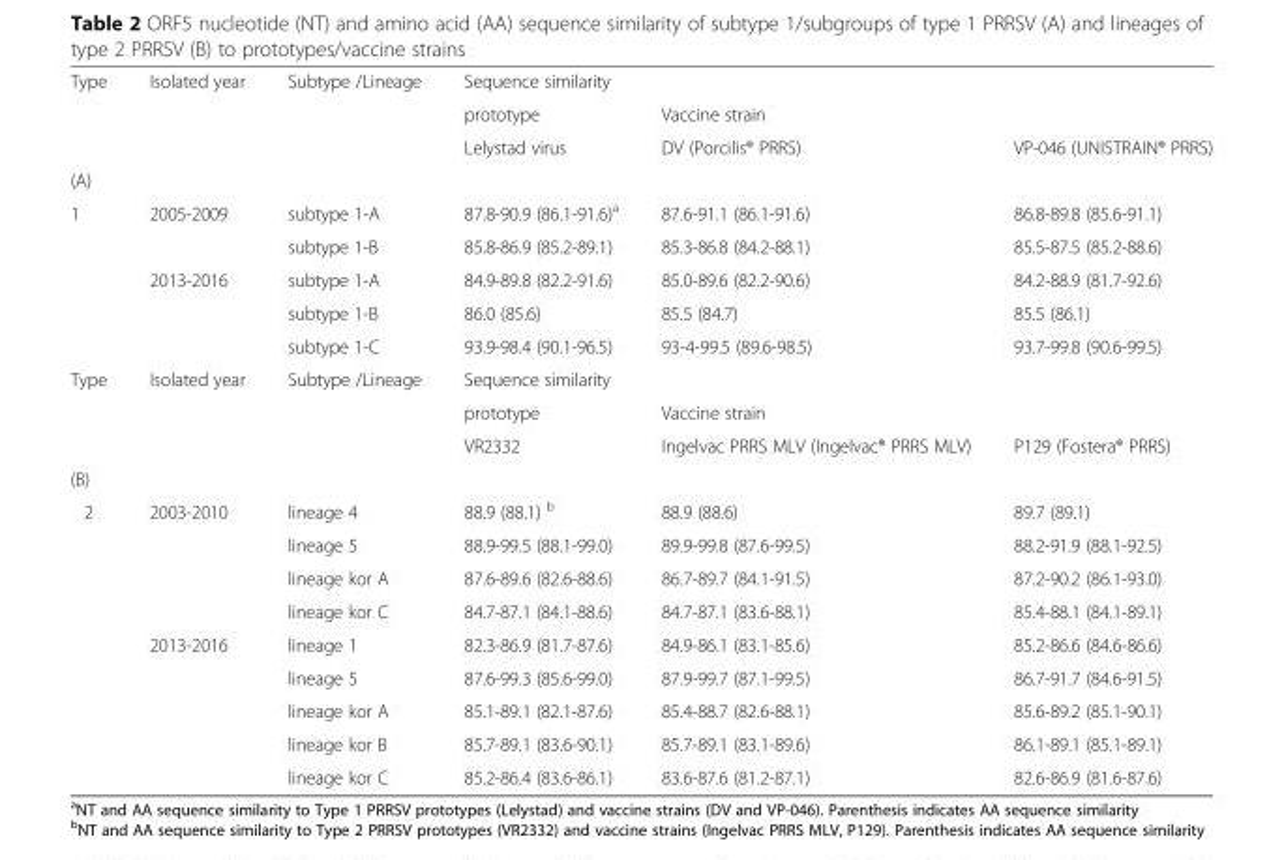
<table><tbody><tr><td rowspan="3">Type</td><td rowspan="3">Isolated year</td><td rowspan="3">Subtype /Lineage</td><td colspan="3">Sequence similarity</td></tr><tr><td>prototype</td><td colspan="2">Vaccine strain</td></tr><tr><td>Lelystad virus</td><td>DV (Porcilis® PRRS)</td><td>VP-046 (UNISTRAIN® PRRS)</td></tr><tr><td colspan="6">(A)</td></tr><tr><td rowspan="5">1</td><td rowspan="2">2005-2009</td><td>subtype 1-A</td><td>87.8-90.9 (86.1-91.6)<sup>a</sup></td><td>87.6-91.1 (86.1-91.6)</td><td>86.8-89.8 (85.6-91.1)</td></tr><tr><td>subtype 1-B</td><td>85.8-86.9 (85.2-89.1)</td><td>85.3-86.8 (84.2-88.1)</td><td>85.5-87.5 (85.2-88.6)</td></tr><tr><td rowspan="3">2013-2016</td><td>subtype 1-A</td><td>84.9-89.8 (82.2-91.6)</td><td>85.0-89.6 (82.2-90.6)</td><td>84.2-88.9 (81.7-92.6)</td></tr><tr><td>subtype 1-B</td><td>86.0 (85.6)</td><td>85.5 (84.7)</td><td>85.5 (86.1)</td></tr><tr><td>subtype 1-C</td><td>93.9-98.4 (90.1-96.5)</td><td>93-4-99.5 (89.6-98.5)</td><td>93.7-99.8 (90.6-99.5)</td></tr><tr><td rowspan="3">Type</td><td rowspan="3">Isolated year</td><td rowspan="3">Subtype /Lineage</td><td colspan="3">Sequence similarity</td></tr><tr><td>prototype</td><td colspan="2">Vaccine strain</td></tr><tr><td>VR2332</td><td>Ingelvac PRRS MLV (Ingelvac® PRRS MLV)</td><td>P129 (Fostera® PRRS)</td></tr><tr><td colspan="6">(B)</td></tr><tr><td rowspan="9">2</td><td rowspan="4">2003-2010</td><td>lineage 4</td><td>88.9 (88.1) <sup>b</sup></td><td>88.9 (88.6)</td><td>89.7 (89.1)</td></tr><tr><td>lineage 5</td><td>88.9-99.5 (88.1-99.0)</td><td>89.9-99.8 (87.6-99.5)</td><td>88.2-91.9 (88.1-92.5)</td></tr><tr><td>lineage kor A</td><td>87.6-89.6 (82.6-88.6)</td><td>86.7-89.7 (84.1-91.5)</td><td>87.2-90.2 (86.1-93.0)</td></tr><tr><td>lineage kor C</td><td>84.7-87.1 (84.1-88.6)</td><td>84.7-87.1 (83.6-88.1)</td><td>85.4-88.1 (84.1-89.1)</td></tr><tr><td rowspan="5">2013-2016</td><td>lineage 1</td><td>82.3-86.9 (81.7-87.6)</td><td>84.9-86.1 (83.1-85.6)</td><td>85.2-86.6 (84.6-86.6)</td></tr><tr><td>lineage 5</td><td>87.6-99.3 (85.6-99.0)</td><td>87.9-99.7 (87.1-99.5)</td><td>86.7-91.7 (84.6-91.5)</td></tr><tr><td>lineage kor A</td><td>85.1-89.1 (82.1-87.6)</td><td>85.4-88.7 (82.6-88.1)</td><td>85.6-89.2 (85.1-90.1)</td></tr><tr><td>lineage kor B</td><td>85.7-89.1 (83.6-90.1)</td><td>85.7-89.1 (83.1-89.6)</td><td>86.1-89.1 (85.1-89.1)</td></tr><tr><td>lineage kor C</td><td>85.2-86.4 (83.6-86.1)</td><td>83.6-87.6 (81.2-87.1)</td><td>82.6-86.9 (81.6-87.6)</td></tr></tbody></table>